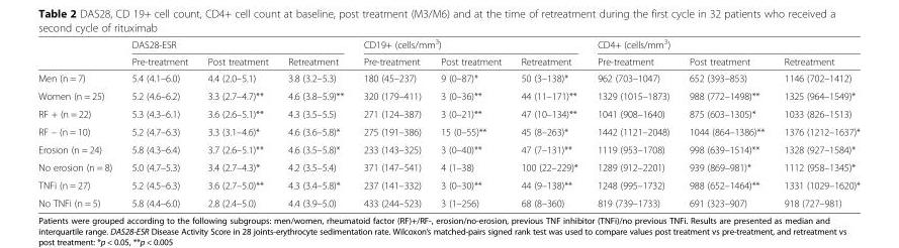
<table><thead><tr><td rowspan="2"></td><td colspan="3">DAS28-ESR</td><td colspan="3">CD19+ (cells/mm<sup>3</sup>)</td><td colspan="3">CD4+ (cells/mm<sup>3</sup>)</td></tr><tr><td>Pre-treatment</td><td>Post treatment</td><td>Retreatment</td><td>Pre-treatment</td><td>Post treatment</td><td>Retreatment</td><td>Pre-treatment</td><td>Post treatment</td><td>Retreatment</td></tr></thead><tbody><tr><td>Men (n = 7)</td><td>5.4 (4.1–6.0)</td><td>4.4 (2.0–5.1)</td><td>3.8 (3.2–5.3)</td><td>180 (45–237)</td><td>9 (0–87)*</td><td>50 (3–138)*</td><td>962 (703–1047)</td><td>652 (393–853)</td><td>1146 (702–1412)</td></tr><tr><td>Women (n = 25)</td><td>5.2 (4.6–6.2)</td><td>3.3 (2.7–4.7)**</td><td>4.6 (3.8–5.9)**</td><td>320 (179–411)</td><td>3 (0–36)**</td><td>44 (11–171)**</td><td>1329 (1015–1873)</td><td>988 (772–1498)**</td><td>1325 (964–1549)*</td></tr><tr><td>RF + (n = 22)</td><td>5.3 (4.3–6.1)</td><td>3.6 (2.6–5.1)**</td><td>4.3 (3.5–5.5)</td><td>271 (124–387)</td><td>3 (0–21)**</td><td>47 (10–134)**</td><td>1041 (908–1640)</td><td>875 (603–1305)*</td><td>1033 (826–1513)</td></tr><tr><td>RF – (n = 10)</td><td>5.2 (4.7–6.3)</td><td>3.3 (3.1–4.6)*</td><td>4.6 (3.6–5.8)*</td><td>275 (191–386)</td><td>15 (0–55)**</td><td>45 (8–263)*</td><td>1442 (1121–2048)</td><td>1044 (864–1386)**</td><td>1376 (1212–1637)*</td></tr><tr><td>Erosion (n = 24)</td><td>5.8 (4.3–6.4)</td><td>3.7 (2.6–5.1)**</td><td>4.6 (3.5–5.8)*</td><td>233 (143–325)</td><td>3 (0–40)**</td><td>47 (7–131)**</td><td>1119 (953–1708)</td><td>998 (639–1514)**</td><td>1328 (927–1584)*</td></tr><tr><td>No erosion (n = 8)</td><td>5.0 (4.7–5.3)</td><td>3.4 (2.7–4.3)*</td><td>4.2 (3.5–5.4)</td><td>371 (147–541)</td><td>4 (1–38)</td><td>100 (22–229)*</td><td>1289 (912–2201)</td><td>939 (869–981)*</td><td>1112 (958–1345)*</td></tr><tr><td>TNFi (n = 27)</td><td>5.2 (4.5–6.3)</td><td>3.6 (2.7–5.0)**</td><td>4.3 (3.4–5.8)*</td><td>237 (141–332)</td><td>3 (0–30)**</td><td>44 (9–138)**</td><td>1248 (995–1732)</td><td>988 (652–1464)**</td><td>1331 (1029–1620)*</td></tr><tr><td>No TNFi (n = 5)</td><td>5.8 (4.4–6.0)</td><td>2.8 (2.4–5.0)</td><td>4.4 (3.9–5.0)</td><td>433 (244–523)</td><td>3 (1–256)</td><td>68 (8–360)</td><td>819 (739–1733)</td><td>691 (323–907)</td><td>918 (727–981)</td></tr></tbody></table>